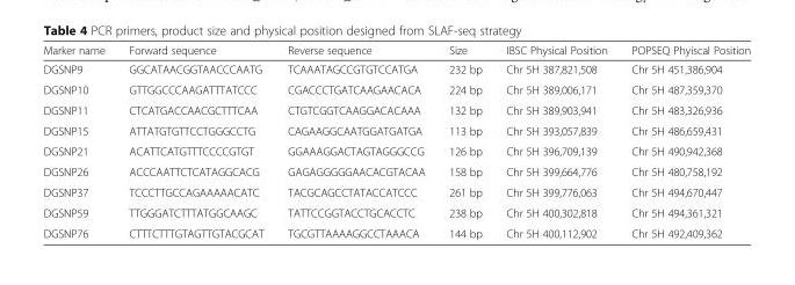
<table><thead><tr><td>Marker name</td><td>Forward sequence</td><td>Reverse sequence</td><td>Size</td><td>IBSC Physical Position</td><td>POPSEQ Phyiscal Position</td></tr></thead><tbody><tr><td>DGSNP9</td><td>GGCATAACGGTAACCCAATG</td><td>TCAAATAGCCGTGTCCATGA</td><td>232 bp</td><td>Chr 5H 387,821,508</td><td>Chr 5H 451,386,904</td></tr><tr><td>DGSNP10</td><td>GTTGGCCCAAGATTTATCCC</td><td>CGACCCTGATCAAGAACACA</td><td>224 bp</td><td>Chr 5H 389,006,171</td><td>Chr 5H 487,359,370</td></tr><tr><td>DGSNP11</td><td>CTCATGACCAACGCTTTCAA</td><td>CTGTCGGTCAAGGACACAAA</td><td>132 bp</td><td>Chr 5H 389,903,941</td><td>Chr 5H 483,326,936</td></tr><tr><td>DGSNP15</td><td>ATTATGTGTTCCTGGGCCTG</td><td>CAGAAGGCAATGGATGATGA</td><td>113 bp</td><td>Chr 5H 393,057,839</td><td>Chr 5H 486,659,431</td></tr><tr><td>DGSNP21</td><td>ACATTCATGTTTCCCCGTGT</td><td>GGAAAGGACTAGTAGGGCCG</td><td>126 bp</td><td>Chr 5H 396,709,139</td><td>Chr 5H 490,942,368</td></tr><tr><td>DGSNP26</td><td>ACCCAATTCTCATAGGCACG</td><td>GAGAGGGGGAACACGTACAA</td><td>158 bp</td><td>Chr 5H 399,664,776</td><td>Chr 5H 480,758,192</td></tr><tr><td>DGSNP37</td><td>TCCCTTGCCAGAAAAACATC</td><td>TACGCAGCCTATACCATCCC</td><td>261 bp</td><td>Chr 5H 399,776,063</td><td>Chr 5H 494,670,447</td></tr><tr><td>DGSNP59</td><td>TTGGGATCTTTATGGCAAGC</td><td>TATTCCGGTACCTGCACCTC</td><td>238 bp</td><td>Chr 5H 400,302,818</td><td>Chr 5H 494,361,321</td></tr><tr><td>DGSNP76</td><td>CTTTCTTTGTAGTTGTACGCAT</td><td>TGCGTTAAAAGGCCTAAACA</td><td>144 bp</td><td>Chr 5H 400,112,902</td><td>Chr 5H 492,409,362</td></tr></tbody></table>